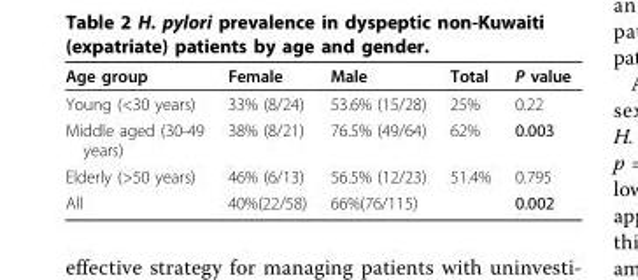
<table><thead><tr><td>Age group</td><td>Female</td><td>Male</td><td>Total</td><td>P value</td></tr></thead><tbody><tr><td>Young (&lt;30 years)</td><td>33% (8/24)</td><td>53.6% (15/28)</td><td>25%</td><td>0.22</td></tr><tr><td>Middle aged (30-49 years)</td><td>38% (8/21)</td><td>76.5% (49/64)</td><td>62%</td><td>0.003</td></tr><tr><td>Elderly (&gt;50 years)</td><td>46% (6/13)</td><td>56.5% (12/23)</td><td>51.4%</td><td>0.795</td></tr><tr><td>All</td><td>40%(22/58)</td><td>66%(76/115)</td><td></td><td>0.002</td></tr></tbody></table>